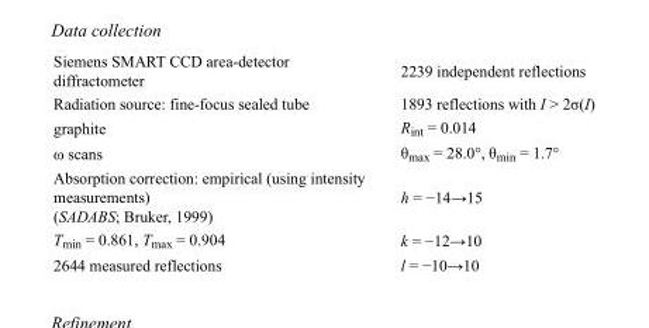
<table><tbody><tr><td>Siemens SMART CCD area-detector diffractometer</td><td>2239 independent reflections</td></tr><tr><td>Radiation source: fine-focus sealed tube</td><td>1893 reflections with I &gt; 2σ(I)</td></tr><tr><td>graphite</td><td>R<sub>int</sub> = 0.014</td></tr><tr><td>ω scans</td><td>θ<sub>max</sub> = 28.0°, θ<sub>min</sub> = 1.7°</td></tr><tr><td>Absorption correction: empirical (using intensity measurements) (SADABS; Bruker, 1999)</td><td>h = −14→15</td></tr><tr><td>T<sub>min</sub> = 0.861, T<sub>max</sub> = 0.904</td><td>k = −12→10</td></tr><tr><td>2644 measured reflections</td><td>l = −10→10</td></tr></tbody></table>